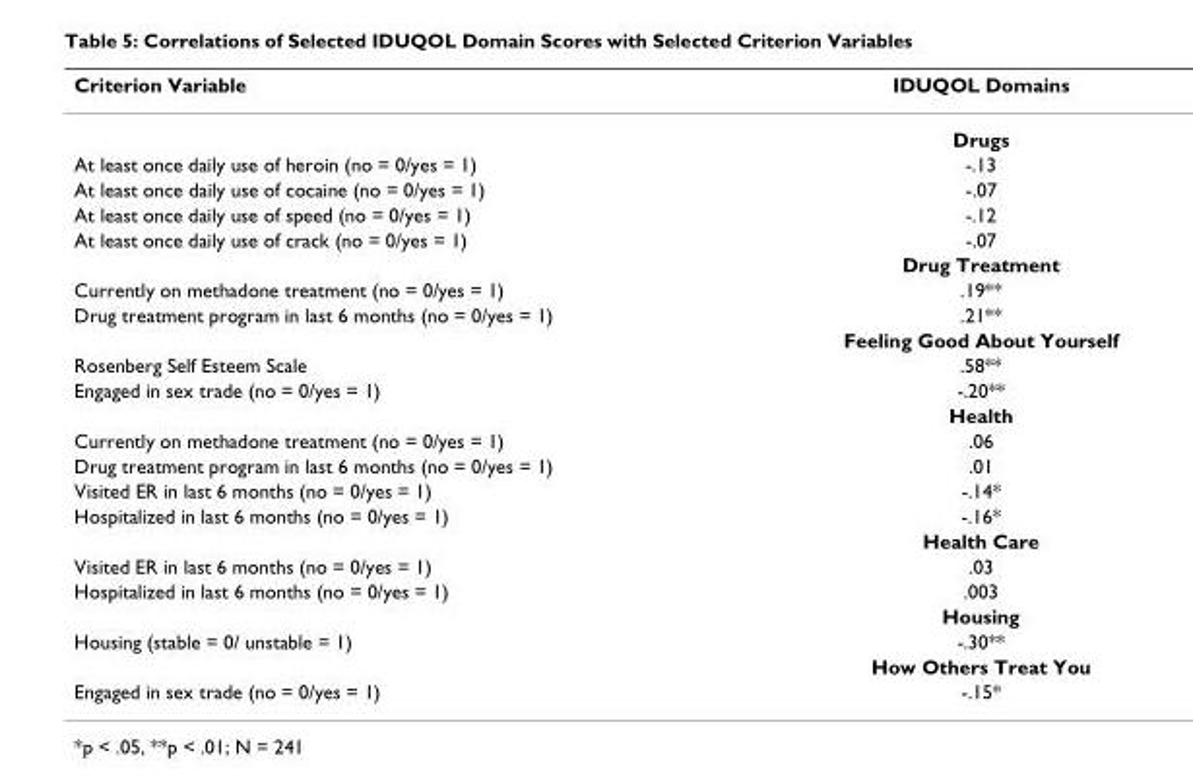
<table><thead><tr><td>Criterion Variable</td><td>IDUQOL Domains</td></tr></thead><tbody><tr><td></td><td>Drugs</td></tr><tr><td>At least once daily use of heroin (no = 0/yes = 1)</td><td>-.13</td></tr><tr><td>At least once daily use of cocaine (no = 0/yes = 1)</td><td>-.07</td></tr><tr><td>At least once daily use of speed (no = 0/yes = 1)</td><td>-.12</td></tr><tr><td rowspan="2">At least once daily use of crack (no = 0/yes = 1)</td><td>-.07</td></tr><tr><td>Drug Treatment</td></tr><tr><td>Currently on methadone treatment (no = 0/yes = 1)</td><td>.19**</td></tr><tr><td rowspan="2">Drug treatment program in last 6 months (no = 0/yes = 1)</td><td>.21**</td></tr><tr><td>Feeling Good About Yourself</td></tr><tr><td>Rosenberg Self Esteem Scale</td><td>.58**</td></tr><tr><td rowspan="2">Engaged in sex trade (no = 0/yes = 1)</td><td>-.20**</td></tr><tr><td>Health</td></tr><tr><td>Currently on methadone treatment (no = 0/yes = 1)</td><td>.06</td></tr><tr><td>Drug treatment program in last 6 months (no = 0/yes = 1)</td><td>.01</td></tr><tr><td>Visited ER in last 6 months (no = 0/yes = 1)</td><td>-.14*</td></tr><tr><td rowspan="2">Hospitalized in last 6 months (no = 0/yes = 1)</td><td>-.16*</td></tr><tr><td>Health Care</td></tr><tr><td>Visited ER in last 6 months (no = 0/yes = 1)</td><td>.03</td></tr><tr><td rowspan="2">Hospitalized in last 6 months (no = 0/yes = 1)</td><td>.003</td></tr><tr><td>Housing</td></tr><tr><td rowspan="2">Housing (stable = 0/ unstable = 1)</td><td>-.30**</td></tr><tr><td>How Others Treat You</td></tr><tr><td>Engaged in sex trade (no = 0/yes = 1)</td><td>-.15*</td></tr></tbody></table>